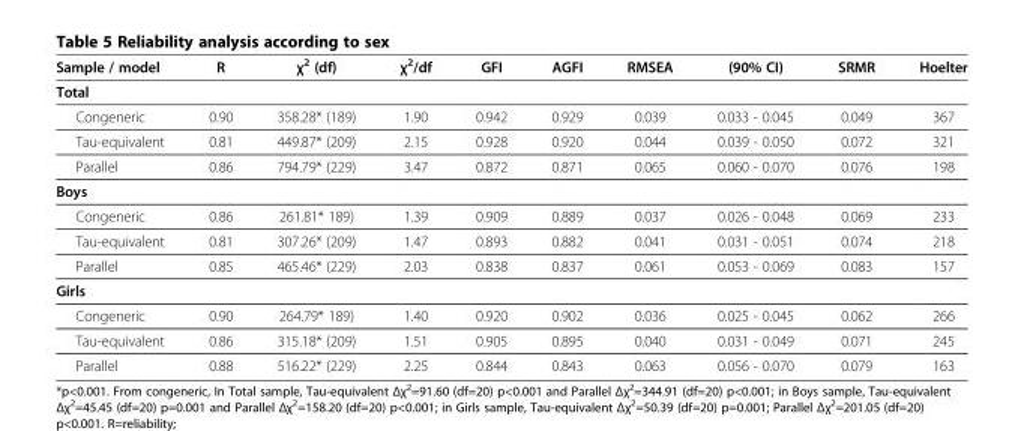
<table><thead><tr><td>Sample / model</td><td>R</td><td>χ<sup>2</sup> (df)</td><td>χ<sup>2</sup>/df</td><td>GFI</td><td>AGFI</td><td>RMSEA</td><td>(90% CI)</td><td>SRMR</td><td>Hoelter</td></tr></thead><tbody><tr><td colspan="10">Total</td></tr><tr><td>Congeneric</td><td>0.90</td><td>358.28* (189)</td><td>1.90</td><td>0.942</td><td>0.929</td><td>0.039</td><td>0.033 - 0.045</td><td>0.049</td><td>367</td></tr><tr><td>Tau-equivalent</td><td>0.81</td><td>449.87* (209)</td><td>2.15</td><td>0.928</td><td>0.920</td><td>0.044</td><td>0.039 - 0.050</td><td>0.072</td><td>321</td></tr><tr><td>Parallel</td><td>0.86</td><td>794.79* (229)</td><td>3.47</td><td>0.872</td><td>0.871</td><td>0.065</td><td>0.060 - 0.070</td><td>0.076</td><td>198</td></tr><tr><td colspan="10">Boys</td></tr><tr><td>Congeneric</td><td>0.86</td><td>261.81* 189)</td><td>1.39</td><td>0.909</td><td>0.889</td><td>0.037</td><td>0.026 - 0.048</td><td>0.069</td><td>233</td></tr><tr><td>Tau-equivalent</td><td>0.81</td><td>307.26* (209)</td><td>1.47</td><td>0.893</td><td>0.882</td><td>0.041</td><td>0.031 - 0.051</td><td>0.074</td><td>218</td></tr><tr><td>Parallel</td><td>0.85</td><td>465.46* (229)</td><td>2.03</td><td>0.838</td><td>0.837</td><td>0.061</td><td>0.053 - 0.069</td><td>0.083</td><td>157</td></tr><tr><td colspan="10">Girls</td></tr><tr><td>Congeneric</td><td>0.90</td><td>264.79* 189)</td><td>1.40</td><td>0.920</td><td>0.902</td><td>0.036</td><td>0.025 - 0.045</td><td>0.062</td><td>266</td></tr><tr><td>Tau-equivalent</td><td>0.86</td><td>315.18* (209)</td><td>1.51</td><td>0.905</td><td>0.895</td><td>0.040</td><td>0.031 - 0.049</td><td>0.071</td><td>245</td></tr><tr><td>Parallel</td><td>0.88</td><td>516.22* (229)</td><td>2.25</td><td>0.844</td><td>0.843</td><td>0.063</td><td>0.056 - 0.070</td><td>0.079</td><td>163</td></tr></tbody></table>